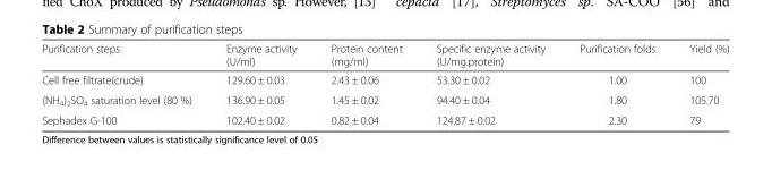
<table><thead><tr><td>Purification steps</td><td>Enzyme activity (U/ml)</td><td>Protein content (mg/ml)</td><td>Specific enzyme activity (U/mg.protein)</td><td>Purification folds</td><td>Yield (%)</td></tr></thead><tbody><tr><td>Cell free filtrate(crude)</td><td>129.60 ± 0.03</td><td>2.43 ± 0.06</td><td>53.30 ± 0.02</td><td>1.00</td><td>100</td></tr><tr><td>(NH<sub>4</sub>)<sub>2</sub>SO<sub>4</sub> saturation level (80 %)</td><td>136.90 ± 0.05</td><td>1.45 ± 0.02</td><td>94.40 ± 0.04</td><td>1.80</td><td>105.70</td></tr><tr><td>Sephadex G-100</td><td>102.40 ± 0.02</td><td>0.82 ± 0.04</td><td>124.87 ± 0.02</td><td>2.30</td><td>79</td></tr></tbody></table>